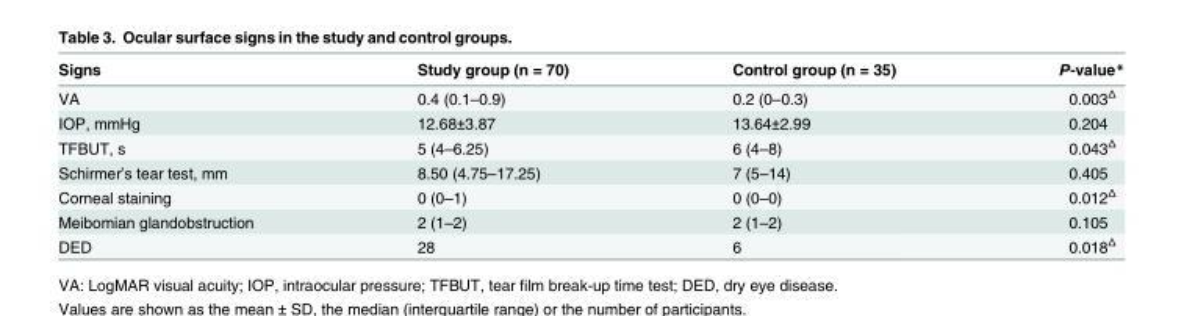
<table><thead><tr><td>Signs</td><td>Study group (n = 70)</td><td>Control group (n = 35)</td><td>P-value*</td></tr></thead><tbody><tr><td>VA</td><td>0.4 (0.1–0.9)</td><td>0.2 (0–0.3)</td><td>0.003<sup>Δ</sup></td></tr><tr><td>IOP, mmHg</td><td>12.68±3.87</td><td>13.64±2.99</td><td>0.204</td></tr><tr><td>TFBUT, s</td><td>5 (4–6.25)</td><td>6 (4–8)</td><td>0.043<sup>Δ</sup></td></tr><tr><td>Schirmer’s tear test, mm</td><td>8.50 (4.75–17.25)</td><td>7 (5–14)</td><td>0.405</td></tr><tr><td>Corneal staining</td><td>0 (0–1)</td><td>0 (0–0)</td><td>0.012<sup>Δ</sup></td></tr><tr><td>Meibomian glandobstruction</td><td>2 (1–2)</td><td>2 (1–2)</td><td>0.105</td></tr><tr><td>DED</td><td>28</td><td>6</td><td>0.018<sup>Δ</sup></td></tr></tbody></table>